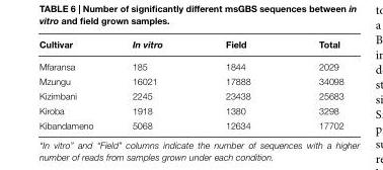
<table><thead><tr><td>Cultivar</td><td>In vitro</td><td>Field</td><td>Total</td></tr></thead><tbody><tr><td>Mfaransa</td><td>185</td><td>1844</td><td>2029</td></tr><tr><td>Mzungu</td><td>16021</td><td>17888</td><td>34098</td></tr><tr><td>Kizimbani</td><td>2245</td><td>23438</td><td>25683</td></tr><tr><td>Kiroba</td><td>1918</td><td>1380</td><td>3298</td></tr><tr><td>Kibandameno</td><td>5068</td><td>12634</td><td>17702</td></tr></tbody></table>